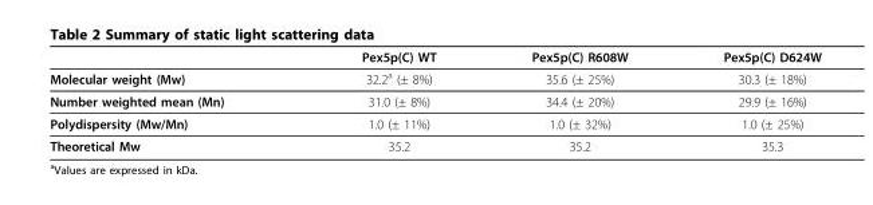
<table><thead><tr><td></td><td>Pex5p(C) WT</td><td>Pex5p(C) R608W</td><td>Pex5p(C) D624W</td></tr></thead><tbody><tr><td>Molecular weight (Mw)</td><td>32.2<sup>a</sup> (± 8%)</td><td>35.6 (± 25%)</td><td>30.3 (± 18%)</td></tr><tr><td>Number weighted mean (Mn)</td><td>31.0 (± 8%)</td><td>34.4 (± 20%)</td><td>29.9 (± 16%)</td></tr><tr><td>Polydispersity (Mw/Mn)</td><td>1.0 (± 11%)</td><td>1.0 (± 32%)</td><td>1.0 (± 25%)</td></tr><tr><td>Theoretical Mw</td><td>35.2</td><td>35.2</td><td>35.3</td></tr></tbody></table>